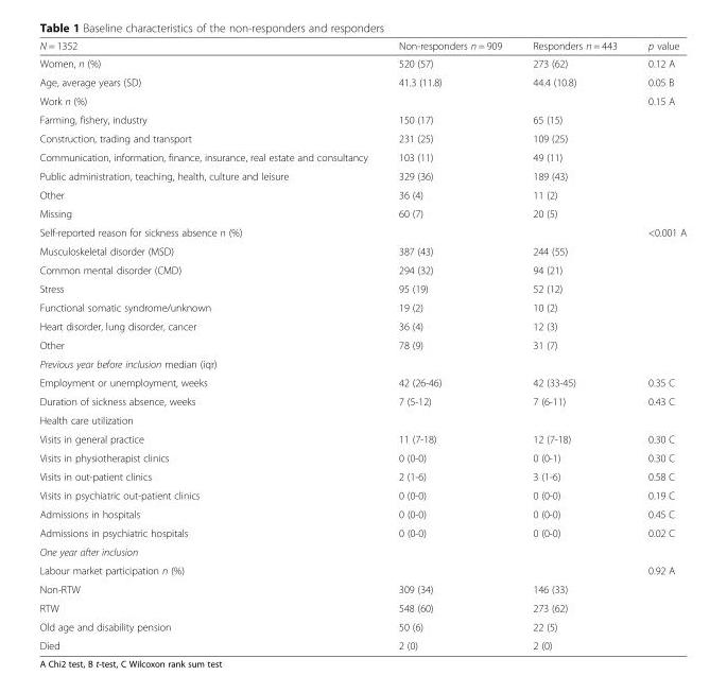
<table><thead><tr><td>N = 1352</td><td>Non-responders n = 909</td><td>Responders n = 443</td><td>p value</td></tr></thead><tbody><tr><td>Women, n (%)</td><td>520 (57)</td><td>273 (62)</td><td>0.12 A</td></tr><tr><td>Age, average years (SD)</td><td>41.3 (11.8)</td><td>44.4 (10.8)</td><td>0.05 B</td></tr><tr><td>Work n (%)</td><td></td><td></td><td>0.15 A</td></tr><tr><td>Farming, fishery, industry</td><td>150 (17)</td><td>65 (15)</td><td></td></tr><tr><td>Construction, trading and transport</td><td>231 (25)</td><td>109 (25)</td><td></td></tr><tr><td>Communication, information, finance, insurance, real estate and consultancy</td><td>103 (11)</td><td>49 (11)</td><td></td></tr><tr><td>Public administration, teaching, health, culture and leisure</td><td>329 (36)</td><td>189 (43)</td><td></td></tr><tr><td>Other</td><td>36 (4)</td><td>11 (2)</td><td></td></tr><tr><td>Missing</td><td>60 (7)</td><td>20 (5)</td><td></td></tr><tr><td>Self-reported reason for sickness absence n (%)</td><td></td><td></td><td>&lt;0.001 A</td></tr><tr><td>Musculoskeletal disorder (MSD)</td><td>387 (43)</td><td>244 (55)</td><td></td></tr><tr><td>Common mental disorder (CMD)</td><td>294 (32)</td><td>94 (21)</td><td></td></tr><tr><td>Stress</td><td>95 (19)</td><td>52 (12)</td><td></td></tr><tr><td>Functional somatic syndrome/unknown</td><td>19 (2)</td><td>10 (2)</td><td></td></tr><tr><td>Heart disorder, lung disorder, cancer</td><td>36 (4)</td><td>12 (3)</td><td></td></tr><tr><td>Other</td><td>78 (9)</td><td>31 (7)</td><td></td></tr><tr><td colspan="4">Previous year before inclusion median (iqr)</td></tr><tr><td>Employment or unemployment, weeks</td><td>42 (26-46)</td><td>42 (33-45)</td><td>0.35 C</td></tr><tr><td>Duration of sickness absence, weeks</td><td>7 (5-12)</td><td>7 (6-11)</td><td>0.43 C</td></tr><tr><td colspan="4">Health care utilization</td></tr><tr><td>Visits in general practice</td><td>11 (7-18)</td><td>12 (7-18)</td><td>0.30 C</td></tr><tr><td>Visits in physiotherapist clinics</td><td>0 (0-0)</td><td>0 (0-1)</td><td>0.30 C</td></tr><tr><td>Visits in out-patient clinics</td><td>2 (1-6)</td><td>3 (1-6)</td><td>0.58 C</td></tr><tr><td>Visits in psychiatric out-patient clinics</td><td>0 (0-0)</td><td>0 (0-0)</td><td>0.19 C</td></tr><tr><td>Admissions in hospitals</td><td>0 (0-0)</td><td>0 (0-0)</td><td>0.45 C</td></tr><tr><td>Admissions in psychiatric hospitals</td><td>0 (0-0)</td><td>0 (0-0)</td><td>0.02 C</td></tr><tr><td colspan="4">One year after inclusion</td></tr><tr><td>Labour market participation n (%)</td><td></td><td></td><td>0.92 A</td></tr><tr><td>Non-RTW</td><td>309 (34)</td><td>146 (33)</td><td></td></tr><tr><td>RTW</td><td>548 (60)</td><td>273 (62)</td><td></td></tr><tr><td>Old age and disability pension</td><td>50 (6)</td><td>22 (5)</td><td></td></tr><tr><td>Died</td><td>2 (0)</td><td>2 (0)</td><td></td></tr></tbody></table>